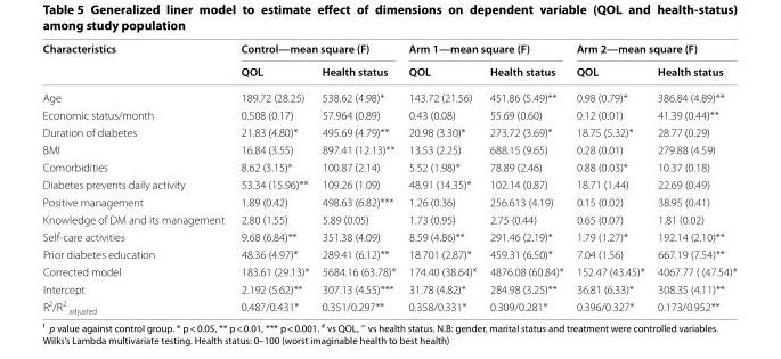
<table><thead><tr><td rowspan="2">Characteristics</td><td colspan="2">Control—mean square (F)</td><td colspan="2">Arm 1—mean square (F)</td><td colspan="2">Arm 2—mean square (F)</td></tr><tr><td>QOL</td><td>Health status</td><td>QOL</td><td>Health status</td><td>QOL</td><td>Health status</td></tr></thead><tbody><tr><td>Age</td><td>189.72 (28.25)</td><td>538.62 (4.98)*</td><td>143.72 (21.56)</td><td>451.86 (5.49)**</td><td>0.98 (0.79)*</td><td>386.84 (4.89)**</td></tr><tr><td>Economic status/month</td><td>0.508 (0.17)</td><td>57.964 (0.89)</td><td>0.43 (0.08)</td><td>55.69 (0.60)</td><td>0.12 (0.01)</td><td>41.39 (0.44)**</td></tr><tr><td>Duration of diabetes</td><td>21.83 (4.80)*</td><td>495.69 (4.79)**</td><td>20.98 (3.30)*</td><td>273.72 (3.69)*</td><td>18.75 (5.32)*</td><td>28.77 (0.29)</td></tr><tr><td>BMI</td><td>16.84 (3.55)</td><td>897.41 (12.13)**</td><td>13.53 (2.25)</td><td>688.15 (9.65)</td><td>0.28 (0.01)</td><td>279.88 (4.59)</td></tr><tr><td>Comorbidities</td><td>8.62 (3.15)*</td><td>100.87 (2.14)</td><td>5.52 (1.98)*</td><td>78.89 (2.46)</td><td>0.88 (0.03)*</td><td>10.37 (0.18)</td></tr><tr><td>Diabetes prevents daily activity</td><td>53.34 (15.96)**</td><td>109.26 (1.09)</td><td>48.91 (14.35)*</td><td>102.14 (0.87)</td><td>18.71 (1.44)</td><td>22.69 (0.49)</td></tr><tr><td>Positive management</td><td>1.89 (0.42)</td><td>498.63 (6.82)***</td><td>1.26 (0.36)</td><td>256.613 (4.19)</td><td>0.15 (0.02)</td><td>38.95 (0.41)</td></tr><tr><td>Knowledge of DM and its management</td><td>2.80 (1.55)</td><td>5.89 (0.05)</td><td>1.73 (0.95)</td><td>2.75 (0.44)</td><td>0.65 (0.07)</td><td>1.81 (0.02)</td></tr><tr><td>Self-care activities</td><td>9.68 (6.84)**</td><td>351.38 (4.09)</td><td>8.59 (4.86)**</td><td>291.46 (2.19)*</td><td>1.79 (1.27)*</td><td>192.14 (2.10)**</td></tr><tr><td>Prior diabetes education</td><td>48.36 (4.97)*</td><td>289.41 (6.12)**</td><td>18.701 (2.87)*</td><td>459.31 (6.50)*</td><td>7.04 (1.56)</td><td>667.19 (7.54)**</td></tr><tr><td>Corrected model</td><td>183.61 (29.13)*</td><td>5684.16 (63.78)*</td><td>174.40 (38.64)*</td><td>4876.08 (60.84)*</td><td>152.47 (43.45)*</td><td>4067.77 ( (47.54)*</td></tr><tr><td>Intercept</td><td>2.192 (5.62)**</td><td>307.13 (4.55)***</td><td>31.78 (4.82)*</td><td>284.98 (3.25)**</td><td>36.81 (6.33)*</td><td>308.35 (4.11)**</td></tr><tr><td>R<sup>2</sup>/R<sup>2</sup> <sub>adjusted</sub></td><td>0.487/0.431*</td><td>0.351/0.297**</td><td>0.358/0.331*</td><td>0.309/0.281*</td><td>0.396/0.327*</td><td>0.173/0.952**</td></tr></tbody></table>